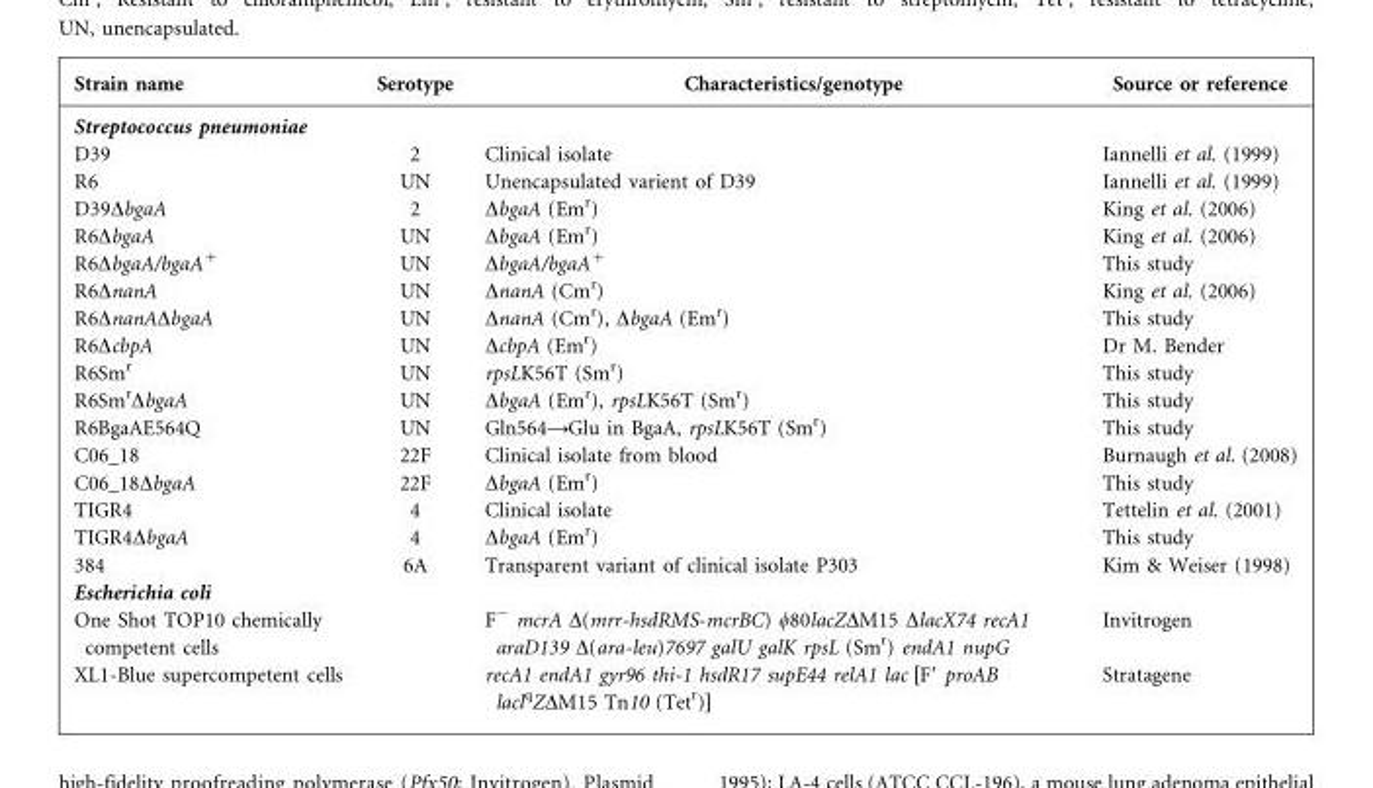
<table><thead><tr><td>Strain name</td><td>Serotype</td><td>Characteristics/genotype</td><td>Source or reference</td></tr></thead><tbody><tr><td colspan="4">Streptococcus pneumoniae</td></tr><tr><td>D39</td><td>2</td><td>Clinical isolate</td><td>Iannelli et al. (1999)</td></tr><tr><td>R6</td><td>UN</td><td>Unencapsulated varient of D39</td><td>Iannelli et al. (1999)</td></tr><tr><td>D39ΔbgaA</td><td>2</td><td>ΔbgaA (Em<sup>r</sup>)</td><td>King et al. (2006)</td></tr><tr><td>R6ΔbgaA</td><td>UN</td><td>ΔbgaA (Em<sup>r</sup>)</td><td>King et al. (2006)</td></tr><tr><td>R6ΔbgaA/bgaA<sup>+</sup></td><td>UN</td><td>ΔbgaA/bgaA<sup>+</sup></td><td>This study</td></tr><tr><td>R6ΔnanA</td><td>UN</td><td>ΔnanA (Cm<sup>r</sup>)</td><td>King et al. (2006)</td></tr><tr><td>R6ΔnanAΔbgaA</td><td>UN</td><td>ΔnanA (Cm<sup>r</sup>), ΔbgaA (Em<sup>r</sup>)</td><td>This study</td></tr><tr><td>R6ΔcbpA</td><td>UN</td><td>ΔcbpA (Em<sup>r</sup>)</td><td>Dr M. Bender</td></tr><tr><td>R6Sm<sup>r</sup></td><td>UN</td><td>rpsLK56T (Sm<sup>r</sup>)</td><td>This study</td></tr><tr><td>R6Sm<sup>r</sup>ΔbgaA</td><td>UN</td><td>ΔbgaA (Em<sup>r</sup>), rpsLK56T (Sm<sup>r</sup>)</td><td>This study</td></tr><tr><td>R6BgaAE564Q</td><td>UN</td><td>Gln564→Glu in BgaA, rpsLK56T (Sm<sup>r</sup>)</td><td>This study</td></tr><tr><td>C06_18</td><td>22F</td><td>Clinical isolate from blood</td><td>Burnaugh et al. (2008)</td></tr><tr><td>C06_18ΔbgaA</td><td>22F</td><td>ΔbgaA (Em<sup>r</sup>)</td><td>This study</td></tr><tr><td>TIGR4</td><td>4</td><td>Clinical isolate</td><td>Tettelin et al. (2001)</td></tr><tr><td>TIGR4ΔbgaA</td><td>4</td><td>ΔbgaA (Em<sup>r</sup>)</td><td>This study</td></tr><tr><td>384</td><td>6A</td><td>Transparent variant of clinical isolate P303</td><td>Kim &amp; Weiser (1998)</td></tr><tr><td colspan="4">Escherichia coli</td></tr><tr><td>One Shot TOP10 chemically competent cells</td><td></td><td>F<sup>−</sup> mcrA Δ(mrr-hsdRMS-mcrBC) ϕ80lacZΔM15 ΔlacX74 recA1 araD139 Δ(ara-leu)7697 galU galK rpsL (Sm<sup>r</sup>) endA1 nupG</td><td>Invitrogen</td></tr><tr><td>XL1-Blue supercompetent cells</td><td></td><td>recA1 endA1 gyr96 thi-1 hsdR17 supE44 relA1 lac [F′ proAB lacl<sup>q</sup>ZΔM15 Tn10 (Tet<sup>r</sup>)]</td><td>Stratagene</td></tr></tbody></table>